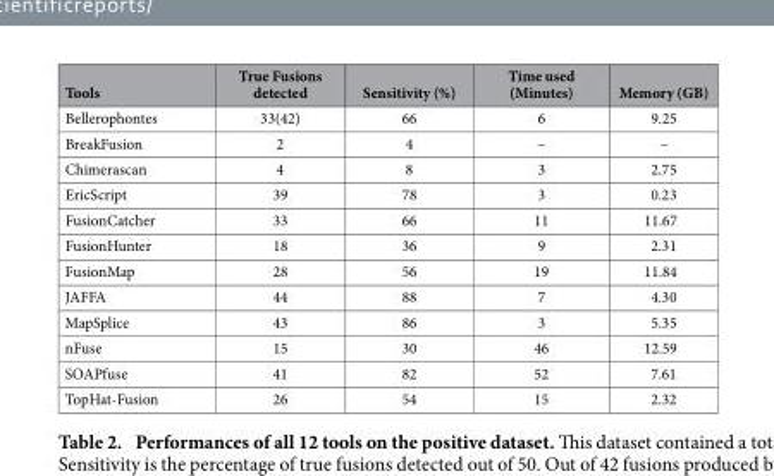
<table><thead><tr><td>Tools</td><td>True Fusions detected</td><td>Sensitivity (%)</td><td>Time used (Minutes)</td><td>Memory (GB)</td></tr></thead><tbody><tr><td>Bellerophontes</td><td>33(42)</td><td>66</td><td>6</td><td>9.25</td></tr><tr><td>BreakFusion</td><td>2</td><td>4</td><td>–</td><td>–</td></tr><tr><td>Chimerascan</td><td>4</td><td>8</td><td>3</td><td>2.75</td></tr><tr><td>EricScript</td><td>39</td><td>78</td><td>3</td><td>0.23</td></tr><tr><td>FusionCatcher</td><td>33</td><td>66</td><td>11</td><td>11.67</td></tr><tr><td>FusionHunter</td><td>18</td><td>36</td><td>9</td><td>2.31</td></tr><tr><td>FusionMap</td><td>28</td><td>56</td><td>19</td><td>11.84</td></tr><tr><td>JAFFA</td><td>44</td><td>88</td><td>7</td><td>4.30</td></tr><tr><td>MapSplice</td><td>43</td><td>86</td><td>3</td><td>5.35</td></tr><tr><td>nFuse</td><td>15</td><td>30</td><td>46</td><td>12.59</td></tr><tr><td>SOAPfuse</td><td>41</td><td>82</td><td>52</td><td>7.61</td></tr><tr><td>TopHat-Fusion</td><td>26</td><td>54</td><td>15</td><td>2.32</td></tr></tbody></table>